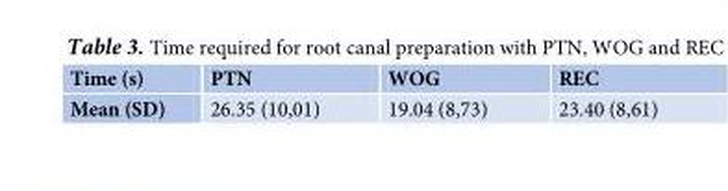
<table><thead><tr><td>Time (s)</td><td>PTN</td><td>WOG</td><td>REC</td></tr></thead><tbody><tr><td>Mean (SD)</td><td>26.35 (10,01)</td><td>19.04 (8,73)</td><td>23.40 (8,61)</td></tr></tbody></table>